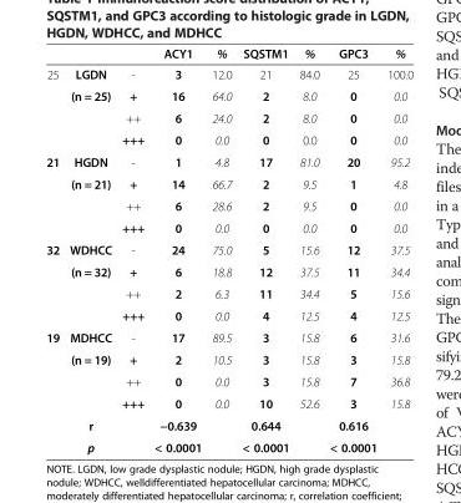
<table><thead><tr><td></td><td></td><td></td><td>ACY1</td><td>%</td><td>SQSTM1</td><td>%</td><td>GPC3</td><td>%</td></tr></thead><tbody><tr><td rowspan="4">25</td><td>LGDN</td><td>-</td><td>3</td><td>12.0</td><td>21</td><td>84.0</td><td>25</td><td>100.0</td></tr><tr><td>(n = 25)</td><td>+</td><td>16</td><td>64.0</td><td>2</td><td>8.0</td><td>0</td><td>0.0</td></tr><tr><td></td><td>++</td><td>6</td><td>24.0</td><td>2</td><td>8.0</td><td>0</td><td>0.0</td></tr><tr><td></td><td>+++</td><td>0</td><td>0.0</td><td>0</td><td>0.0</td><td>0</td><td>0.0</td></tr><tr><td rowspan="4">21</td><td>HGDN</td><td>-</td><td>1</td><td>4.8</td><td>17</td><td>81.0</td><td>20</td><td>95.2</td></tr><tr><td>(n = 21)</td><td>+</td><td>14</td><td>66.7</td><td>2</td><td>9.5</td><td>1</td><td>4.8</td></tr><tr><td></td><td>++</td><td>6</td><td>28.6</td><td>2</td><td>9.5</td><td>0</td><td>0.0</td></tr><tr><td></td><td>+++</td><td>0</td><td>0.0</td><td>0</td><td>0.0</td><td>0</td><td>0.0</td></tr><tr><td rowspan="4">32</td><td>WDHCC</td><td>-</td><td>24</td><td>75.0</td><td>5</td><td>15.6</td><td>12</td><td>37.5</td></tr><tr><td>(n = 32)</td><td>+</td><td>6</td><td>18.8</td><td>12</td><td>37.5</td><td>11</td><td>34.4</td></tr><tr><td></td><td>++</td><td>2</td><td>6.3</td><td>11</td><td>34.4</td><td>5</td><td>15.6</td></tr><tr><td></td><td>+++</td><td>0</td><td>0.0</td><td>4</td><td>12.5</td><td>4</td><td>12.5</td></tr><tr><td rowspan="6">19</td><td>MDHCC</td><td>-</td><td>17</td><td>89.5</td><td>3</td><td>15.8</td><td>6</td><td>31.6</td></tr><tr><td>(n = 19)</td><td>+</td><td>2</td><td>10.5</td><td>3</td><td>15.8</td><td>3</td><td>15.8</td></tr><tr><td></td><td>++</td><td>0</td><td>0.0</td><td>3</td><td>15.8</td><td>7</td><td>36.8</td></tr><tr><td></td><td>+++</td><td>0</td><td>0.0</td><td>10</td><td>52.6</td><td>3</td><td>15.8</td></tr><tr><td>r</td><td></td><td>−0.639</td><td></td><td>0.644</td><td></td><td>0.616</td><td></td></tr><tr><td>p</td><td></td><td>&lt; 0.0001</td><td></td><td>&lt; 0.0001</td><td></td><td>&lt; 0.0001</td><td></td></tr></tbody></table>